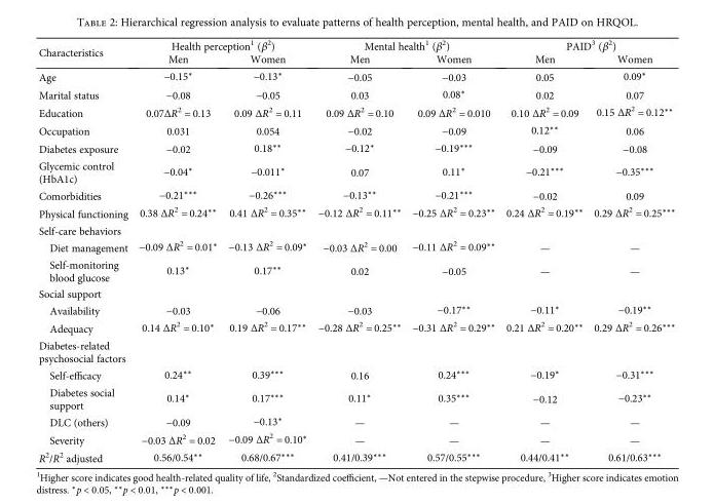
<table><thead><tr><td rowspan="2">Characteristics</td><td colspan="2">Health perception<sup>1</sup> (β<sup>2</sup>)</td><td colspan="2">Mental health<sup>1</sup> (β<sup>2</sup>)</td><td colspan="2">PAID<sup>3</sup> (β<sup>2</sup>)</td></tr><tr><td>Men</td><td>Women</td><td>Men</td><td>Women</td><td>Men</td><td>Women</td></tr></thead><tbody><tr><td>Age</td><td>−0.15∗</td><td>−0.13∗</td><td>−0.05</td><td>−0.03</td><td>0.05</td><td>0.09∗</td></tr><tr><td>Marital status</td><td>−0.08</td><td>−0.05</td><td>0.03</td><td>0.08∗</td><td>0.02</td><td>0.07</td></tr><tr><td>Education</td><td>0.07ΔR<sup>2</sup> = 0.13</td><td>0.09 ΔR<sup>2</sup> = 0.11</td><td>0.09 ΔR<sup>2</sup> = 0.10</td><td>0.09 ΔR<sup>2</sup> = 0.010</td><td>0.10 ΔR<sup>2</sup> = 0.09</td><td>0.15 ΔR<sup>2</sup> = 0.12∗∗</td></tr><tr><td>Occupation</td><td>0.031</td><td>0.054</td><td>−0.02</td><td>−0.09</td><td>0.12∗∗</td><td>0.06</td></tr><tr><td>Diabetes exposure</td><td>−0.02</td><td>0.18∗∗</td><td>−0.12∗</td><td>−0.19∗∗∗</td><td>−0.09</td><td>−0.08</td></tr><tr><td>Glycemic control (HbA1c)</td><td>−0.04∗</td><td>−0.011∗</td><td>0.07</td><td>0.11∗</td><td>−0.21∗∗∗</td><td>−0.35∗∗∗</td></tr><tr><td>Comorbidities</td><td>−0.21∗∗∗</td><td>−0.26∗∗∗</td><td>−0.13∗∗</td><td>−0.21∗∗∗</td><td>−0.02</td><td>0.09</td></tr><tr><td>Physical functioning</td><td>0.38 ΔR<sup>2</sup> = 0.24∗∗</td><td>0.41 ΔR<sup>2</sup> = 0.35∗∗</td><td>−0.12 ΔR<sup>2</sup> = 0.11∗∗</td><td>−0.25 ΔR<sup>2</sup> = 0.23∗∗</td><td>0.24 ΔR<sup>2</sup> = 0.19∗∗</td><td>0.29 ΔR<sup>2</sup> = 0.25∗∗∗</td></tr><tr><td colspan="7">Self-care behaviors</td></tr><tr><td>Diet management</td><td>−0.09 ΔR<sup>2</sup> = 0.01∗</td><td>−0.13 ΔR<sup>2</sup> = 0.09∗</td><td>−0.03 ΔR<sup>2</sup> = 0.00</td><td>−0.11 ΔR<sup>2</sup> = 0.09∗∗</td><td>—</td><td>—</td></tr><tr><td>Self-monitoring blood glucose</td><td>0.13∗</td><td>0.17∗∗</td><td>0.02</td><td>−0.05</td><td>—</td><td>—</td></tr><tr><td colspan="7">Social support</td></tr><tr><td>Availability</td><td>−0.03</td><td>−0.06</td><td>−0.03</td><td>−0.17∗∗</td><td>−0.11∗</td><td>−0.19∗∗</td></tr><tr><td>Adequacy</td><td>0.14 ΔR<sup>2</sup> = 0.10∗</td><td>0.19 ΔR<sup>2</sup> = 0.17∗∗</td><td>−0.28 ΔR<sup>2</sup> = 0.25∗∗</td><td>−0.31 ΔR<sup>2</sup> = 0.29∗∗</td><td>0.21 ΔR<sup>2</sup> = 0.20∗∗</td><td>0.29 ΔR<sup>2</sup> = 0.26∗∗∗</td></tr><tr><td colspan="7">Diabetes-related psychosocial factors</td></tr><tr><td>Self-efficacy</td><td>0.24∗∗</td><td>0.39∗∗∗</td><td>0.16</td><td>0.24∗∗∗</td><td>−0.19∗</td><td>−0.31∗∗∗</td></tr><tr><td>Diabetes social support</td><td>0.14∗</td><td>0.17∗∗∗</td><td>0.11∗</td><td>0.35∗∗∗</td><td>−0.12</td><td>−0.23∗∗</td></tr><tr><td>DLC (others)</td><td>−0.09</td><td>−0.13∗</td><td>—</td><td>—</td><td>—</td><td>—</td></tr><tr><td>Severity</td><td>−0.03 ΔR<sup>2</sup> = 0.02</td><td>−0.09 ΔR<sup>2</sup> = 0.10∗</td><td>—</td><td>—</td><td>—</td><td>—</td></tr><tr><td>R<sup>2</sup>/R<sup>2</sup> adjusted</td><td>0.56/0.54∗∗</td><td>0.68/0.67∗∗∗</td><td>0.41/0.39∗∗∗</td><td>0.57/0.55∗∗∗</td><td>0.44/0.41∗∗</td><td>0.61/0.63∗∗∗</td></tr></tbody></table>